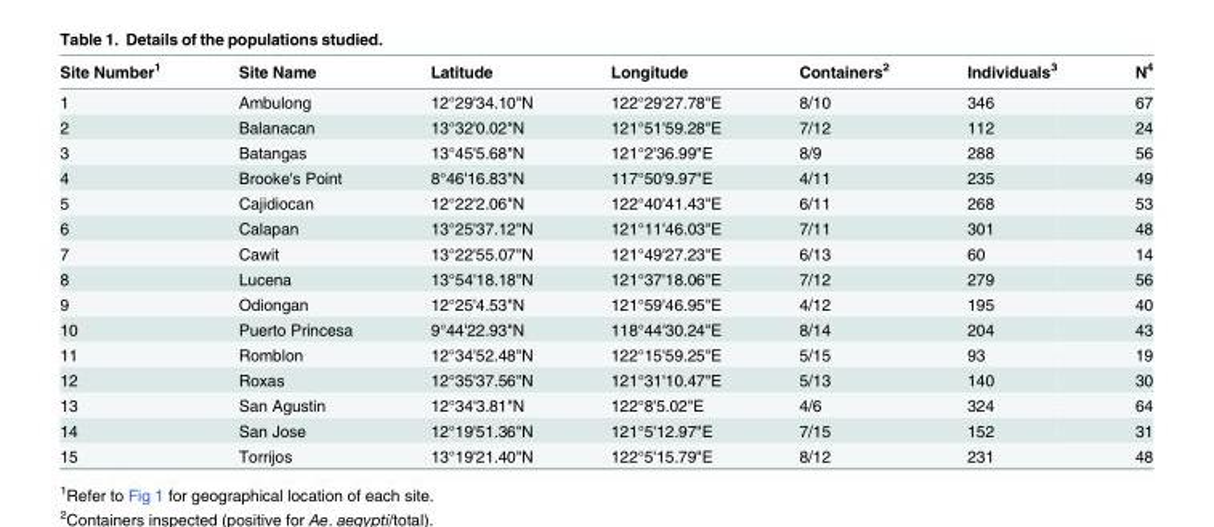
<table><thead><tr><td>Site Number<sup>1</sup></td><td>Site Name</td><td>Latitude</td><td>Longitude</td><td>Containers<sup>2</sup></td><td>Individuals<sup>3</sup></td><td>N<sup>4</sup></td></tr></thead><tbody><tr><td>1</td><td>Ambulong</td><td>12°29&#x27;34.10&quot;N</td><td>122°29&#x27;27.78&quot;E</td><td>8/10</td><td>346</td><td>67</td></tr><tr><td>2</td><td>Balanacan</td><td>13°32&#x27;0.02&quot;N</td><td>121°51&#x27;59.28&quot;E</td><td>7/12</td><td>112</td><td>24</td></tr><tr><td>3</td><td>Batangas</td><td>13°45&#x27;5.68&quot;N</td><td>121°2&#x27;36.99&quot;E</td><td>8/9</td><td>288</td><td>56</td></tr><tr><td>4</td><td>Brooke&#x27;s Point</td><td>8°46&#x27;16.83&quot;N</td><td>117°50&#x27;9.97&quot;E</td><td>4/11</td><td>235</td><td>49</td></tr><tr><td>5</td><td>Cajidiocan</td><td>12°22&#x27;2.06&quot;N</td><td>122°40&#x27;41.43&quot;E</td><td>6/11</td><td>268</td><td>53</td></tr><tr><td>6</td><td>Calapan</td><td>13°25&#x27;37.12&quot;N</td><td>121°11&#x27;46.03&quot;E</td><td>7/11</td><td>301</td><td>48</td></tr><tr><td>7</td><td>Cawit</td><td>13°22&#x27;55.07&quot;N</td><td>121°49&#x27;27.23&quot;E</td><td>6/13</td><td>60</td><td>14</td></tr><tr><td>8</td><td>Lucena</td><td>13°54&#x27;18.18&quot;N</td><td>121°37&#x27;18.06&quot;E</td><td>7/12</td><td>279</td><td>56</td></tr><tr><td>9</td><td>Odiongan</td><td>12°25&#x27;4.53&quot;N</td><td>121°59&#x27;46.95&quot;E</td><td>4/12</td><td>195</td><td>40</td></tr><tr><td>10</td><td>Puerto Princesa</td><td>9°44&#x27;22.93&quot;N</td><td>118°44&#x27;30.24&quot;E</td><td>8/14</td><td>204</td><td>43</td></tr><tr><td>11</td><td>Romblon</td><td>12°34&#x27;52.48&quot;N</td><td>122°15&#x27;59.25&quot;E</td><td>5/15</td><td>93</td><td>19</td></tr><tr><td>12</td><td>Roxas</td><td>12°35&#x27;37.56&quot;N</td><td>121°31&#x27;10.47&quot;E</td><td>5/13</td><td>140</td><td>30</td></tr><tr><td>13</td><td>San Agustin</td><td>12°34&#x27;3.81&quot;N</td><td>122°8&#x27;5.02&quot;E</td><td>4/6</td><td>324</td><td>64</td></tr><tr><td>14</td><td>San Jose</td><td>12°19&#x27;51.36&quot;N</td><td>121°5&#x27;12.97&quot;E</td><td>7/15</td><td>152</td><td>31</td></tr><tr><td>15</td><td>Torrijos</td><td>13°19&#x27;21.40&quot;N</td><td>122°5&#x27;15.79&quot;E</td><td>8/12</td><td>231</td><td>48</td></tr></tbody></table>